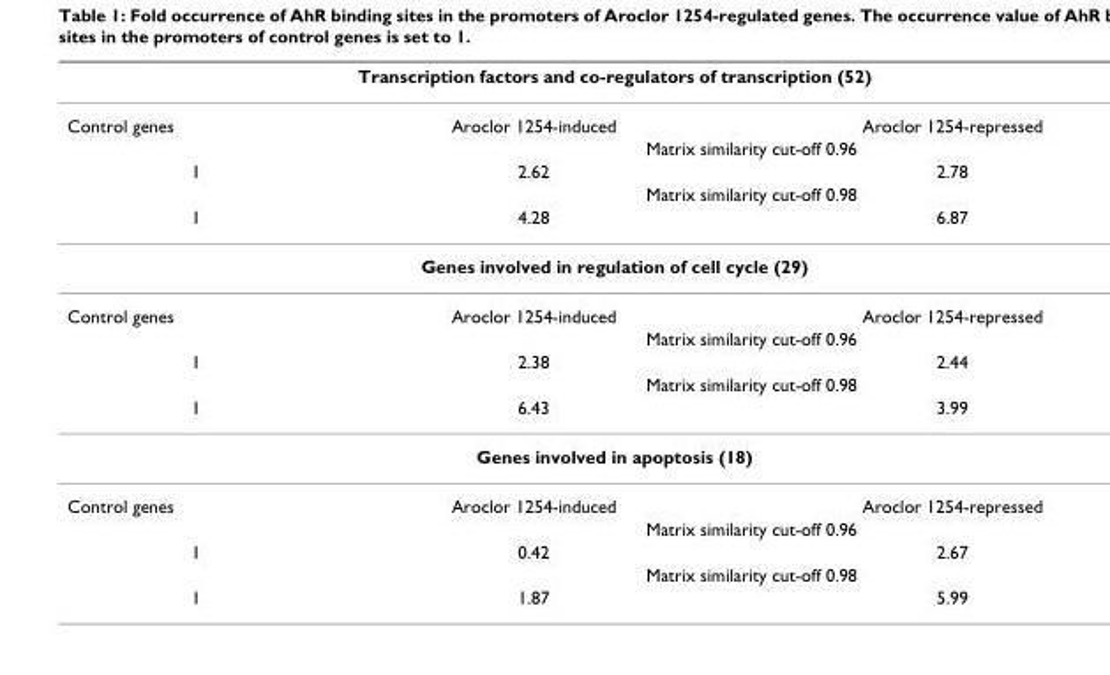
<table><thead><tr><td colspan="3">Transcription factors and co-regulators of transcription (52)</td></tr><tr><td>Control genes</td><td>Aroclor 1254-induced</td><td>Aroclor 1254-repressed</td></tr></thead><tbody><tr><td></td><td colspan="2">Matrix similarity cut-off 0.96</td></tr><tr><td rowspan="2">1</td><td>2.62</td><td>2.78</td></tr><tr><td colspan="2">Matrix similarity cut-off 0.98</td></tr><tr><td>1</td><td>4.28</td><td>6.87</td></tr><tr><td colspan="3">Genes involved in regulation of cell cycle (29)</td></tr><tr><td rowspan="2">Control genes</td><td>Aroclor 1254-induced</td><td>Aroclor 1254-repressed</td></tr><tr><td colspan="2">Matrix similarity cut-off 0.96</td></tr><tr><td rowspan="2">1</td><td>2.38</td><td>2.44</td></tr><tr><td colspan="2">Matrix similarity cut-off 0.98</td></tr><tr><td>1</td><td>6.43</td><td>3.99</td></tr><tr><td colspan="3">Genes involved in apoptosis (18)</td></tr><tr><td rowspan="2">Control genes</td><td>Aroclor 1254-induced</td><td>Aroclor 1254-repressed</td></tr><tr><td colspan="2">Matrix similarity cut-off 0.96</td></tr><tr><td rowspan="2">1</td><td>0.42</td><td>2.67</td></tr><tr><td colspan="2">Matrix similarity cut-off 0.98</td></tr><tr><td>1</td><td>1.87</td><td>5.99</td></tr></tbody></table>